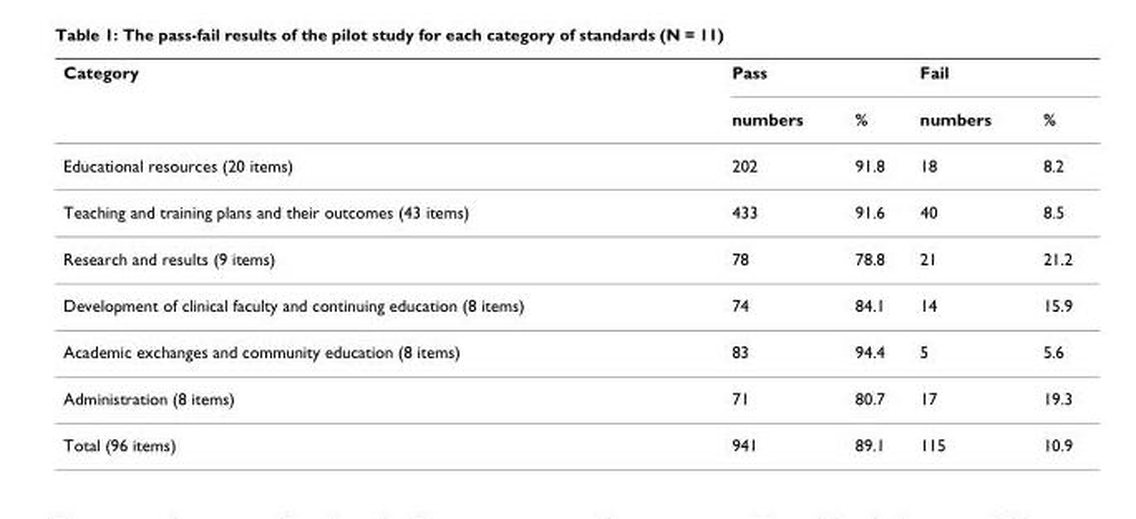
<table><thead><tr><td rowspan="2">Category</td><td rowspan="2">Pass numbers</td><td rowspan="2">%</td><td rowspan="2">Fail numbers</td><td rowspan="2">%</td></tr><tr></tr></thead><tbody><tr><td>Educational resources (20 items)</td><td>202</td><td>91.8</td><td>18</td><td>8.2</td></tr><tr><td>Teaching and training plans and their outcomes (43 items)</td><td>433</td><td>91.6</td><td>40</td><td>8.5</td></tr><tr><td>Research and results (9 items)</td><td>78</td><td>78.8</td><td>21</td><td>21.2</td></tr><tr><td>Development of clinical faculty and continuing education (8 items)</td><td>74</td><td>84.1</td><td>14</td><td>15.9</td></tr><tr><td>Academic exchanges and community education (8 items)</td><td>83</td><td>94.4</td><td>5</td><td>5.6</td></tr><tr><td>Administration (8 items)</td><td>71</td><td>80.7</td><td>17</td><td>19.3</td></tr><tr><td>Total (96 items)</td><td>941</td><td>89.1</td><td>115</td><td>10.9</td></tr></tbody></table>